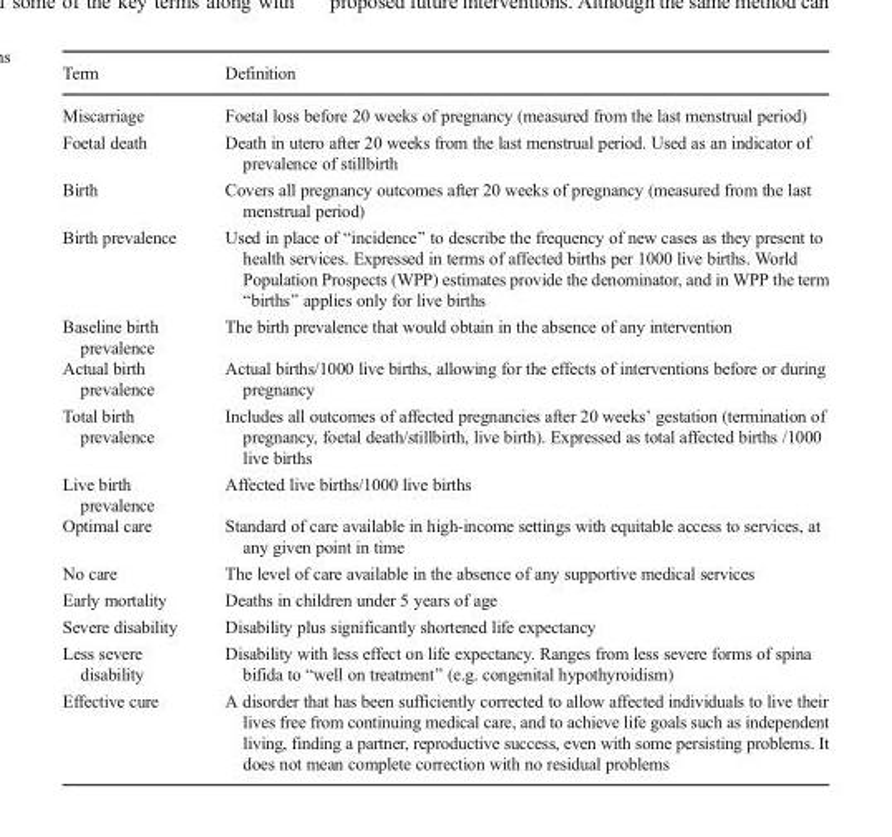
<table><thead><tr><td>Term</td><td>Definition</td></tr></thead><tbody><tr><td>Miscarriage</td><td>Foetal loss before 20 weeks of pregnancy (measured from the last menstrual period)</td></tr><tr><td>Foetal death</td><td>Death in utero after 20 weeks from the last menstrual period. Used as an indicator of prevalence of stillbirth</td></tr><tr><td>Birth</td><td>Covers all pregnancy outcomes after 20 weeks of pregnancy (measured from the last menstrual period)</td></tr><tr><td>Birth prevalence</td><td>Used in place of “incidence” to describe the frequency of new cases as they present to health services. Expressed in terms of affected births per 1000 live births. World Population Prospects (WPP) estimates provide the denominator, and in WPP the term “births” applies only for live births</td></tr><tr><td>Baseline birth prevalence</td><td>The birth prevalence that would obtain in the absence of any intervention</td></tr><tr><td>Actual birth prevalence</td><td>Actual births/1000 live births, allowing for the effects of interventions before or during pregnancy</td></tr><tr><td>Total birth prevalence</td><td>Includes all outcomes of affected pregnancies after 20 weeks’ gestation (termination of pregnancy, foetal death/stillbirth, live birth). Expressed as total affected births /1000 live births</td></tr><tr><td>Live birth prevalence</td><td>Affected live births/1000 live births</td></tr><tr><td>Optimal care</td><td>Standard of care available in high-income settings with equitable access to services, at any given point in time</td></tr><tr><td>No care</td><td>The level of care available in the absence of any supportive medical services</td></tr><tr><td>Early mortality</td><td>Deaths in children under 5 years of age</td></tr><tr><td>Severe disability</td><td>Disability plus significantly shortened life expectancy</td></tr><tr><td>Less severe disability</td><td>Disability with less effect on life expectancy. Ranges from less severe forms of spina bifida to “well on treatment” (e.g. congenital hypothyroidism)</td></tr><tr><td>Effective cure</td><td>A disorder that has been sufficiently corrected to allow affected individuals to live their lives free from continuing medical care, and to achieve life goals such as independent living, finding a partner, reproductive success, even with some persisting problems. It does not mean complete correction with no residual problems</td></tr></tbody></table>